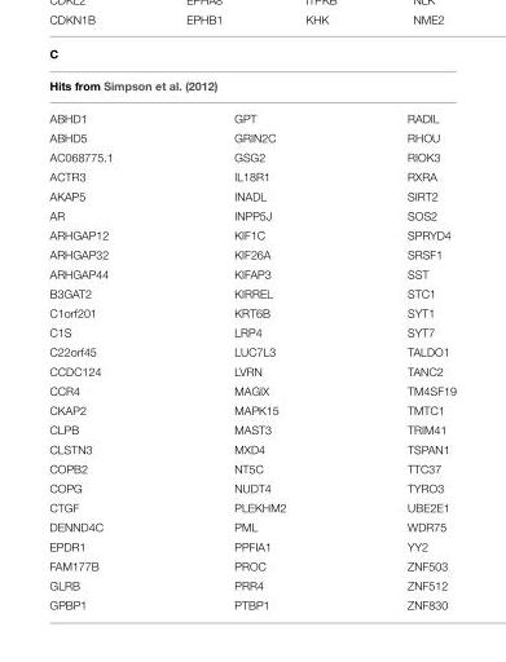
<table><thead><tr><td rowspan="2" colspan="3">C Hits from Simpson et al. (2012)</td></tr><tr></tr><tr><td>ABHD1</td><td>GPT</td><td>RADIL</td></tr></thead><tbody><tr><td>ABHD5</td><td>GRIN2C</td><td>RHOU</td></tr><tr><td>AC068775.1</td><td>GSG2</td><td>RIOK3</td></tr><tr><td>ACTR3</td><td>IL18R1</td><td>RXRA</td></tr><tr><td>AKAP5</td><td>INADL</td><td>SIRT2</td></tr><tr><td>AR</td><td>INPP5J</td><td>SOS2</td></tr><tr><td>ARHGAP12</td><td>KIF1C</td><td>SPRYD4</td></tr><tr><td>ARHGAP32</td><td>KIF26A</td><td>SRSF1</td></tr><tr><td>ARHGAP44</td><td>KIFAP3</td><td>SST</td></tr><tr><td>B3GAT2</td><td>KIRREL</td><td>STC1</td></tr><tr><td>C1orf201</td><td>KRT6B</td><td>SYT1</td></tr><tr><td>C1S</td><td>LRP4</td><td>SYT7</td></tr><tr><td>C22orf45</td><td>LUC7L3</td><td>TALDO1</td></tr><tr><td>CCDC124</td><td>LVRN</td><td>TANC2</td></tr><tr><td>CCR4</td><td>MAGIX</td><td>TM4SF19</td></tr><tr><td>CKAP2</td><td>MAPK15</td><td>TMTC1</td></tr><tr><td>CLPB</td><td>MAST3</td><td>TRIM41</td></tr><tr><td>CLSTN3</td><td>MXD4</td><td>TSPAN1</td></tr><tr><td>COPB2</td><td>NT5C</td><td>TTC37</td></tr><tr><td>COPG</td><td>NUDT4</td><td>TYRO3</td></tr><tr><td>CTGF</td><td>PLEKHM2</td><td>UBE2E1</td></tr><tr><td>DENND4C</td><td>PML</td><td>WDR75</td></tr><tr><td>EPDR1</td><td>PPFIA1</td><td>YY2</td></tr><tr><td>FAM177B</td><td>PROC</td><td>ZNF503</td></tr><tr><td>GLRB</td><td>PRR4</td><td>ZNF512</td></tr><tr><td>GPBP1</td><td>PTBP1</td><td>ZNF830</td></tr></tbody></table>